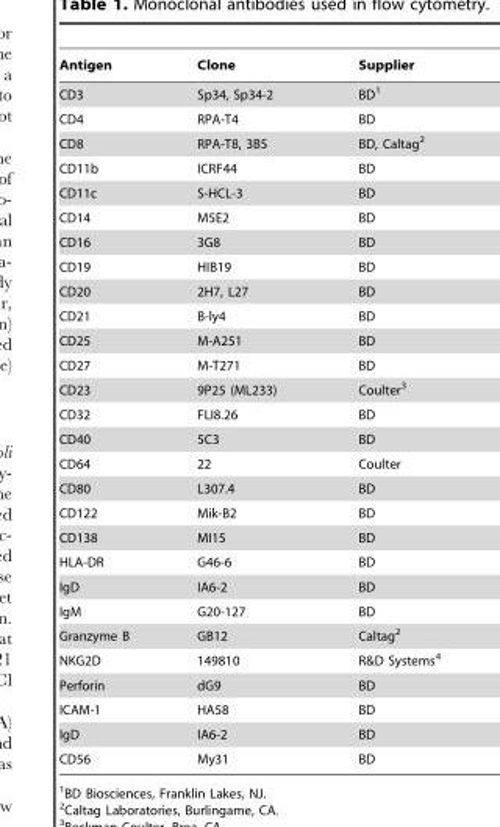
<table><thead><tr><td>Antigen</td><td>Clone</td><td>Supplier</td></tr></thead><tbody><tr><td>CD3</td><td>Sp34, Sp34-2</td><td>BD<sup>1</sup></td></tr><tr><td>CD4</td><td>RPA-T4</td><td>BD</td></tr><tr><td>CD8</td><td>RPA-T8, 3B5</td><td>BD, Caltag<sup>2</sup></td></tr><tr><td>CD11b</td><td>ICRF44</td><td>BD</td></tr><tr><td>CD11c</td><td>S-HCL-3</td><td>BD</td></tr><tr><td>CD14</td><td>M5E2</td><td>BD</td></tr><tr><td>CD16</td><td>3G8</td><td>BD</td></tr><tr><td>CD19</td><td>HIB19</td><td>BD</td></tr><tr><td>CD20</td><td>2H7, L27</td><td>BD</td></tr><tr><td>CD21</td><td>B-ly4</td><td>BD</td></tr><tr><td>CD25</td><td>M-A251</td><td>BD</td></tr><tr><td>CD27</td><td>M-T271</td><td>BD</td></tr><tr><td>CD23</td><td>9P25 (ML233)</td><td>Coulter<sup>3</sup></td></tr><tr><td>CD32</td><td>FLI8.26</td><td>BD</td></tr><tr><td>CD40</td><td>5C3</td><td>BD</td></tr><tr><td>CD64</td><td>22</td><td>Coulter</td></tr><tr><td>CD80</td><td>L307.4</td><td>BD</td></tr><tr><td>CD122</td><td>Mik-B2</td><td>BD</td></tr><tr><td>CD138</td><td>MI15</td><td>BD</td></tr><tr><td>HLA-DR</td><td>G46-6</td><td>BD</td></tr><tr><td>IgD</td><td>IA6-2</td><td>BD</td></tr><tr><td>IgM</td><td>G20-127</td><td>BD</td></tr><tr><td>Granzyme B</td><td>GB12</td><td>Caltag<sup>2</sup></td></tr><tr><td>NKG2D</td><td>149810</td><td>R&amp;D Systems<sup>4</sup></td></tr><tr><td>Perforin</td><td>dG9</td><td>BD</td></tr><tr><td>ICAM-1</td><td>HA58</td><td>BD</td></tr><tr><td>IgD</td><td>IA6-2</td><td>BD</td></tr><tr><td>CD56</td><td>My31</td><td>BD</td></tr></tbody></table>